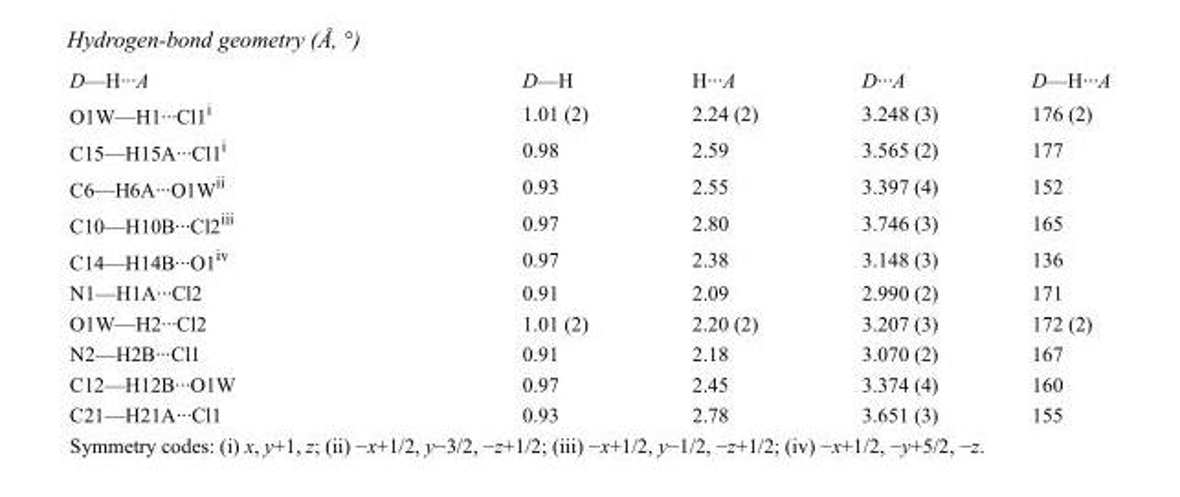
<table><tbody><tr><td>D—H···A</td><td>D—H</td><td>H···A</td><td>D···A</td><td>D—H···A</td></tr><tr><td>O1W—H1···Cl1<sup>i</sup></td><td>1.01 (2)</td><td>2.24 (2)</td><td>3.248 (3)</td><td>176 (2)</td></tr><tr><td>C15—H15A···Cl1<sup>i</sup></td><td>0.98</td><td>2.59</td><td>3.565 (2)</td><td>177</td></tr><tr><td>C6—H6A···O1W<sup>ii</sup></td><td>0.93</td><td>2.55</td><td>3.397 (4)</td><td>152</td></tr><tr><td>C10—H10B···Cl2<sup>iii</sup></td><td>0.97</td><td>2.80</td><td>3.746 (3)</td><td>165</td></tr><tr><td>C14—H14B···O1<sup>iv</sup></td><td>0.97</td><td>2.38</td><td>3.148 (3)</td><td>136</td></tr><tr><td>N1—H1A···Cl2</td><td>0.91</td><td>2.09</td><td>2.990 (2)</td><td>171</td></tr><tr><td>O1W—H2···Cl2</td><td>1.01 (2)</td><td>2.20 (2)</td><td>3.207 (3)</td><td>172 (2)</td></tr><tr><td>N2—H2B···Cl1</td><td>0.91</td><td>2.18</td><td>3.070 (2)</td><td>167</td></tr><tr><td>C12—H12B···O1W</td><td>0.97</td><td>2.45</td><td>3.374 (4)</td><td>160</td></tr><tr><td>C21—H21A···Cl1</td><td>0.93</td><td>2.78</td><td>3.651 (3)</td><td>155</td></tr></tbody></table>